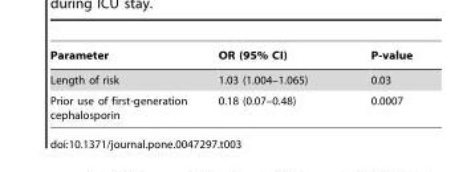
<table><thead><tr><td>Parameter</td><td>OR (95% CI)</td><td>P-value</td></tr></thead><tbody><tr><td>Length of risk</td><td>1.03 (1.004–1.065)</td><td>0.03</td></tr><tr><td>Prior use of first-generation cephalosporin</td><td>0.18 (0.07–0.48)</td><td>0.0007</td></tr></tbody></table>